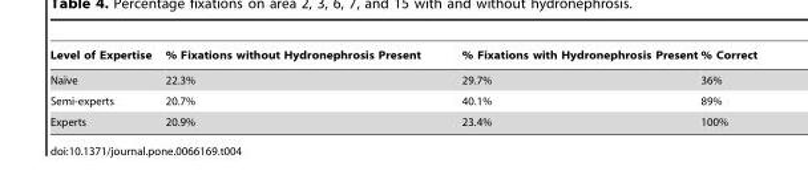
<table><thead><tr><td>Level of Expertise</td><td>% Fixations without Hydronephrosis Present</td><td>% Fixations with Hydronephrosis Present</td><td>% Correct</td></tr></thead><tbody><tr><td>Naı¨ve</td><td>22.3%</td><td>29.7%</td><td>36%</td></tr><tr><td>Semi-experts</td><td>20.7%</td><td>40.1%</td><td>89%</td></tr><tr><td>Experts</td><td>20.9%</td><td>23.4%</td><td>100%</td></tr></tbody></table>